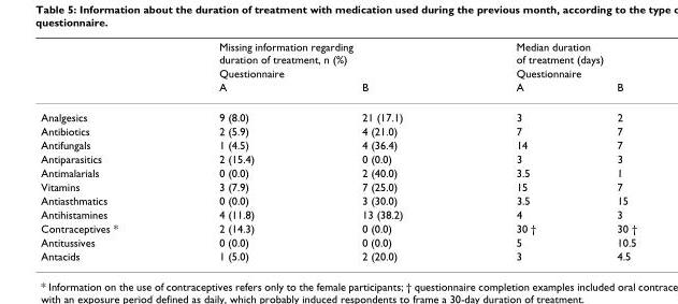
<table><thead><tr><td rowspan="3"></td><td rowspan="2" colspan="2">Missing information regarding duration of treatment, n (%) Questionnaire</td><td rowspan="2" colspan="2">Median duration of treatment (days) Questionnaire</td></tr><tr></tr><tr><td>A</td><td>B</td><td>A</td><td>B</td></tr></thead><tbody><tr><td>Analgesics</td><td>9 (8.0)</td><td>21 (17.1)</td><td>3</td><td>2</td></tr><tr><td>Antibiotics</td><td>2 (5.9)</td><td>4 (21.0)</td><td>7</td><td>7</td></tr><tr><td>Antifungals</td><td>1 (4.5)</td><td>4 (36.4)</td><td>14</td><td>7</td></tr><tr><td>Antiparasitics</td><td>2 (15.4)</td><td>0 (0.0)</td><td>3</td><td>3</td></tr><tr><td>Antimalarials</td><td>0 (0.0)</td><td>2 (40.0)</td><td>3.5</td><td>1</td></tr><tr><td>Vitamins</td><td>3 (7.9)</td><td>7 (25.0)</td><td>15</td><td>7</td></tr><tr><td>Antiasthmatics</td><td>0 (0.0)</td><td>3 (30.0)</td><td>3.5</td><td>15</td></tr><tr><td>Antihistamines</td><td>4 (11.8)</td><td>13 (38.2)</td><td>4</td><td>3</td></tr><tr><td>Contraceptives *</td><td>2 (14.3)</td><td>0 (0.0)</td><td>30 †</td><td>30 †</td></tr><tr><td>Antitussives</td><td>0 (0.0)</td><td>0 (0.0)</td><td>5</td><td>10.5</td></tr><tr><td>Antacids</td><td>1 (5.0)</td><td>2 (20.0)</td><td>3</td><td>4.5</td></tr></tbody></table>